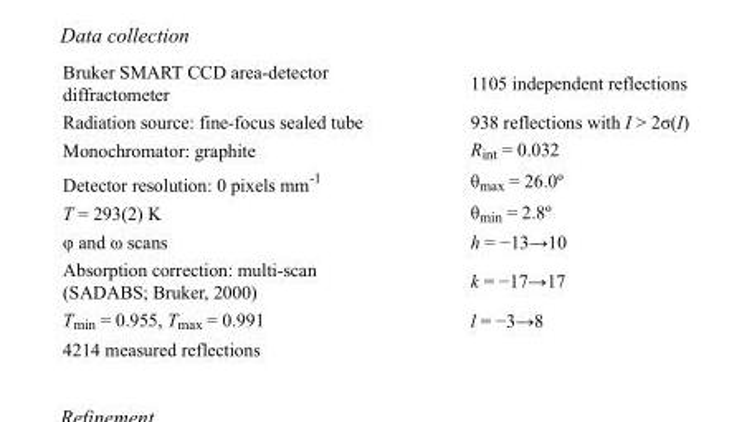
<table><tbody><tr><td>Bruker SMART CCD area-detector diffractometer</td><td>1105 independent reflections</td></tr><tr><td>Radiation source: fine-focus sealed tube</td><td>938 reflections with I &gt; 2σ(I)</td></tr><tr><td>Monochromator: graphite</td><td>R<sub>int</sub> = 0.032</td></tr><tr><td>Detector resolution: 0 pixels mm<sup>-1</sup></td><td>θ<sub>max</sub> = 26.0º</td></tr><tr><td>T = 293(2) K</td><td>θ<sub>min</sub> = 2.8º</td></tr><tr><td>φ and ω scans</td><td>h = −13→10</td></tr><tr><td>Absorption correction: multi-scan (SADABS; Bruker, 2000)</td><td>k = −17→17</td></tr><tr><td>T<sub>min</sub> = 0.955, T<sub>max</sub> = 0.991</td><td>l = −3→8</td></tr><tr><td>4214 measured reflections</td><td></td></tr></tbody></table>